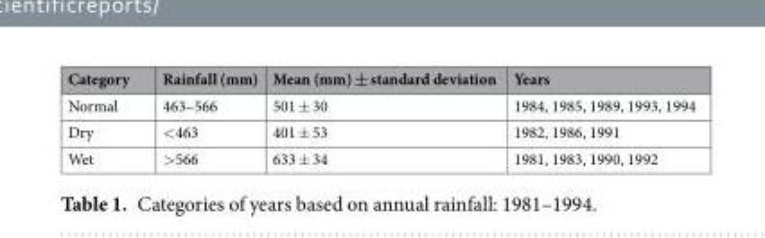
<table><thead><tr><td>Category</td><td>Rainfall (mm)</td><td>Mean (mm) ± standard deviation</td><td>Years</td></tr></thead><tbody><tr><td>Normal</td><td>463–566</td><td>501 ± 30</td><td>1984, 1985, 1989, 1993, 1994</td></tr><tr><td>Dry</td><td>&lt;463</td><td>401 ± 53</td><td>1982, 1986, 1991</td></tr><tr><td>Wet</td><td>&gt;566</td><td>633 ± 34</td><td>1981, 1983, 1990, 1992</td></tr></tbody></table>